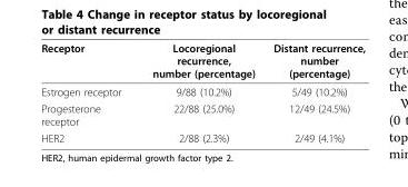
<table><thead><tr><td>Receptor</td><td>Locoregional recurrence, number (percentage)</td><td>Distant recurrence, number (percentage)</td></tr></thead><tbody><tr><td>Estrogen receptor</td><td>9/88 (10.2%)</td><td>5/49 (10.2%)</td></tr><tr><td>Progesterone receptor</td><td>22/88 (25.0%)</td><td>12/49 (24.5%)</td></tr><tr><td>HER2</td><td>2/88 (2.3%)</td><td>2/49 (4.1%)</td></tr></tbody></table>